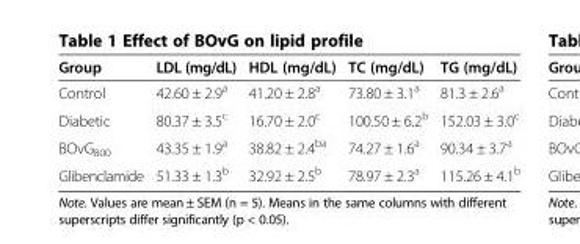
<table><thead><tr><td>Group</td><td>LDL (mg/dL)</td><td>HDL (mg/dL)</td><td>TC (mg/dL)</td><td>TG (mg/dL)</td></tr></thead><tbody><tr><td>Control</td><td>42.60 ± 2.9<sup>a</sup></td><td>41.20 ± 2.8<sup>a</sup></td><td>73.80 ± 3.1<sup>a</sup></td><td>81.3 ± 2.6<sup>a</sup></td></tr><tr><td>Diabetic</td><td>80.37 ± 3.5<sup>c</sup></td><td>16.70 ± 2.0<sup>c</sup></td><td>100.50 ± 6.2<sup>b</sup></td><td>152.03 ± 3.0<sup>c</sup></td></tr><tr><td>BOvG<sub>800</sub></td><td>43.35 ± 1.9<sup>a</sup></td><td>38.82 ± 2.4<sup>ba</sup></td><td>74.27 ± 1.6<sup>a</sup></td><td>90.34 ± 3.7<sup>a</sup></td></tr><tr><td>Glibenclamide</td><td>51.33 ± 1.3<sup>b</sup></td><td>32.92 ± 2.5<sup>b</sup></td><td>78.97 ± 2.3<sup>a</sup></td><td>115.26 ± 4.1<sup>b</sup></td></tr></tbody></table>